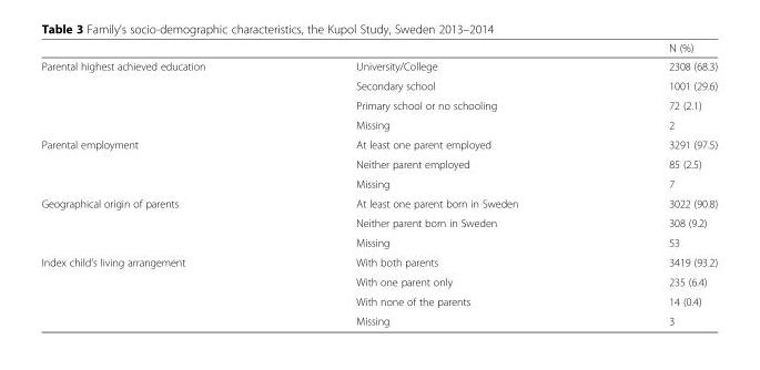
<table><thead><tr><td></td><td></td><td>N (%)</td></tr></thead><tbody><tr><td rowspan="4">Parental highest achieved education</td><td>University/College</td><td>2308 (68.3)</td></tr><tr><td>Secondary school</td><td>1001 (29.6)</td></tr><tr><td>Primary school or no schooling</td><td>72 (2.1)</td></tr><tr><td>Missing</td><td>2</td></tr><tr><td rowspan="3">Parental employment</td><td>At least one parent employed</td><td>3291 (97.5)</td></tr><tr><td>Neither parent employed</td><td>85 (2.5)</td></tr><tr><td>Missing</td><td>7</td></tr><tr><td rowspan="3">Geographical origin of parents</td><td>At least one parent born in Sweden</td><td>3022 (90.8)</td></tr><tr><td>Neither parent born in Sweden</td><td>308 (9.2)</td></tr><tr><td>Missing</td><td>53</td></tr><tr><td rowspan="4">Index child’s living arrangement</td><td>With both parents</td><td>3419 (93.2)</td></tr><tr><td>With one parent only</td><td>235 (6.4)</td></tr><tr><td>With none of the parents</td><td>14 (0.4)</td></tr><tr><td>Missing</td><td>3</td></tr></tbody></table>